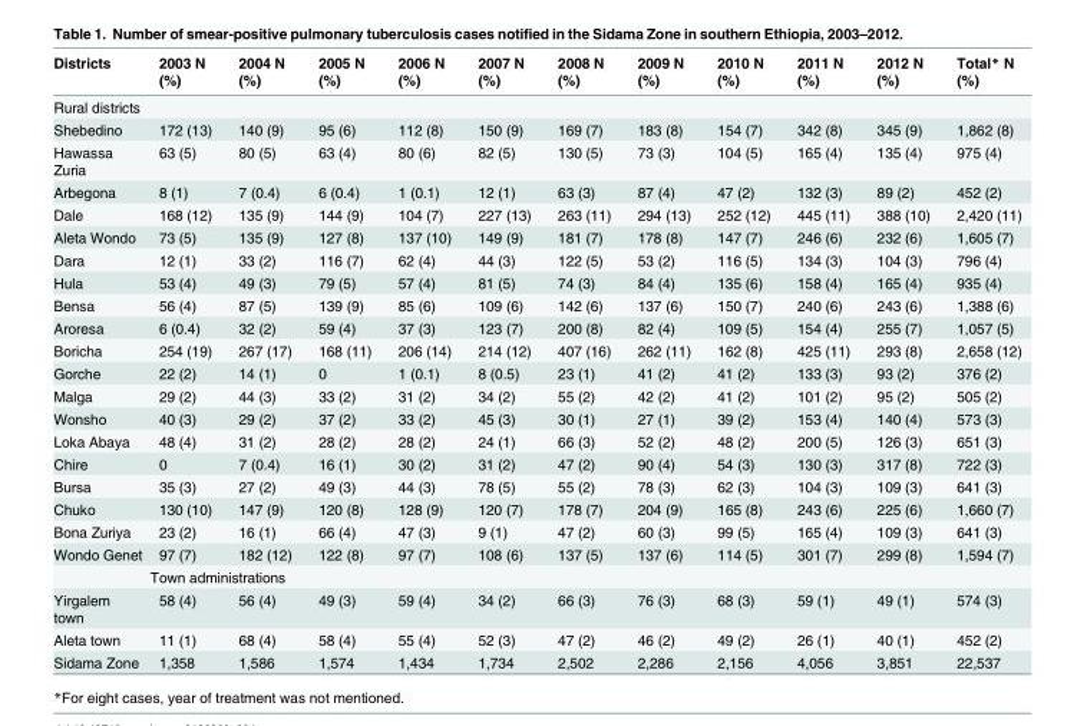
<table><thead><tr><td>Districts</td><td>2003 N (%)</td><td>2004 N (%)</td><td>2005 N (%)</td><td>2006 N (%)</td><td>2007 N (%)</td><td>2008 N (%)</td><td>2009 N (%)</td><td>2010 N (%)</td><td>2011 N (%)</td><td>2012 N (%)</td><td>Total* N (%)</td></tr></thead><tbody><tr><td colspan="12">Rural districts</td></tr><tr><td>Shebedino</td><td>172 (13)</td><td>140 (9)</td><td>95 (6)</td><td>112 (8)</td><td>150 (9)</td><td>169 (7)</td><td>183 (8)</td><td>154 (7)</td><td>342 (8)</td><td>345 (9)</td><td>1,862 (8)</td></tr><tr><td>Hawassa Zuria</td><td>63 (5)</td><td>80 (5)</td><td>63 (4)</td><td>80 (6)</td><td>82 (5)</td><td>130 (5)</td><td>73 (3)</td><td>104 (5)</td><td>165 (4)</td><td>135 (4)</td><td>975 (4)</td></tr><tr><td>Arbegona</td><td>8 (1)</td><td>7 (0.4)</td><td>6 (0.4)</td><td>1 (0.1)</td><td>12 (1)</td><td>63 (3)</td><td>87 (4)</td><td>47 (2)</td><td>132 (3)</td><td>89 (2)</td><td>452 (2)</td></tr><tr><td>Dale</td><td>168 (12)</td><td>135 (9)</td><td>144 (9)</td><td>104 (7)</td><td>227 (13)</td><td>263 (11)</td><td>294 (13)</td><td>252 (12)</td><td>445 (11)</td><td>388 (10)</td><td>2,420 (11)</td></tr><tr><td>Aleta Wondo</td><td>73 (5)</td><td>135 (9)</td><td>127 (8)</td><td>137 (10)</td><td>149 (9)</td><td>181 (7)</td><td>178 (8)</td><td>147 (7)</td><td>246 (6)</td><td>232 (6)</td><td>1,605 (7)</td></tr><tr><td>Dara</td><td>12 (1)</td><td>33 (2)</td><td>116 (7)</td><td>62 (4)</td><td>44 (3)</td><td>122 (5)</td><td>53 (2)</td><td>116 (5)</td><td>134 (3)</td><td>104 (3)</td><td>796 (4)</td></tr><tr><td>Hula</td><td>53 (4)</td><td>49 (3)</td><td>79 (5)</td><td>57 (4)</td><td>81 (5)</td><td>74 (3)</td><td>84 (4)</td><td>135 (6)</td><td>158 (4)</td><td>165 (4)</td><td>935 (4)</td></tr><tr><td>Bensa</td><td>56 (4)</td><td>87 (5)</td><td>139 (9)</td><td>85 (6)</td><td>109 (6)</td><td>142 (6)</td><td>137 (6)</td><td>150 (7)</td><td>240 (6)</td><td>243 (6)</td><td>1,388 (6)</td></tr><tr><td>Aroresa</td><td>6 (0.4)</td><td>32 (2)</td><td>59 (4)</td><td>37 (3)</td><td>123 (7)</td><td>200 (8)</td><td>82 (4)</td><td>109 (5)</td><td>154 (4)</td><td>255 (7)</td><td>1,057 (5)</td></tr><tr><td>Boricha</td><td>254 (19)</td><td>267 (17)</td><td>168 (11)</td><td>206 (14)</td><td>214 (12)</td><td>407 (16)</td><td>262 (11)</td><td>162 (8)</td><td>425 (11)</td><td>293 (8)</td><td>2,658 (12)</td></tr><tr><td>Gorche</td><td>22 (2)</td><td>14 (1)</td><td>0</td><td>1 (0.1)</td><td>8 (0.5)</td><td>23 (1)</td><td>41 (2)</td><td>41 (2)</td><td>133 (3)</td><td>93 (2)</td><td>376 (2)</td></tr><tr><td>Malga</td><td>29 (2)</td><td>44 (3)</td><td>33 (2)</td><td>31 (2)</td><td>34 (2)</td><td>55 (2)</td><td>42 (2)</td><td>41 (2)</td><td>101 (2)</td><td>95 (2)</td><td>505 (2)</td></tr><tr><td>Wonsho</td><td>40 (3)</td><td>29 (2)</td><td>37 (2)</td><td>33 (2)</td><td>45 (3)</td><td>30 (1)</td><td>27 (1)</td><td>39 (2)</td><td>153 (4)</td><td>140 (4)</td><td>573 (3)</td></tr><tr><td>Loka Abaya</td><td>48 (4)</td><td>31 (2)</td><td>28 (2)</td><td>28 (2)</td><td>24 (1)</td><td>66 (3)</td><td>52 (2)</td><td>48 (2)</td><td>200 (5)</td><td>126 (3)</td><td>651 (3)</td></tr><tr><td>Chire</td><td>0</td><td>7 (0.4)</td><td>16 (1)</td><td>30 (2)</td><td>31 (2)</td><td>47 (2)</td><td>90 (4)</td><td>54 (3)</td><td>130 (3)</td><td>317 (8)</td><td>722 (3)</td></tr><tr><td>Bursa</td><td>35 (3)</td><td>27 (2)</td><td>49 (3)</td><td>44 (3)</td><td>78 (5)</td><td>55 (2)</td><td>78 (3)</td><td>62 (3)</td><td>104 (3)</td><td>109 (3)</td><td>641 (3)</td></tr><tr><td>Chuko</td><td>130 (10)</td><td>147 (9)</td><td>120 (8)</td><td>128 (9)</td><td>120 (7)</td><td>178 (7)</td><td>204 (9)</td><td>165 (8)</td><td>243 (6)</td><td>225 (6)</td><td>1,660 (7)</td></tr><tr><td>Bona Zuriya</td><td>23 (2)</td><td>16 (1)</td><td>66 (4)</td><td>47 (3)</td><td>9 (1)</td><td>47 (2)</td><td>60 (3)</td><td>99 (5)</td><td>165 (4)</td><td>109 (3)</td><td>641 (3)</td></tr><tr><td>Wondo Genet</td><td>97 (7)</td><td>182 (12)</td><td>122 (8)</td><td>97 (7)</td><td>108 (6)</td><td>137 (5)</td><td>137 (6)</td><td>114 (5)</td><td>301 (7)</td><td>299 (8)</td><td>1,594 (7)</td></tr><tr><td colspan="12">Town administrations</td></tr><tr><td>Yirgalem town</td><td>58 (4)</td><td>56 (4)</td><td>49 (3)</td><td>59 (4)</td><td>34 (2)</td><td>66 (3)</td><td>76 (3)</td><td>68 (3)</td><td>59 (1)</td><td>49 (1)</td><td>574 (3)</td></tr><tr><td>Aleta town</td><td>11 (1)</td><td>68 (4)</td><td>58 (4)</td><td>55 (4)</td><td>52 (3)</td><td>47 (2)</td><td>46 (2)</td><td>49 (2)</td><td>26 (1)</td><td>40 (1)</td><td>452 (2)</td></tr><tr><td>Sidama Zone</td><td>1,358</td><td>1,586</td><td>1,574</td><td>1,434</td><td>1,734</td><td>2,502</td><td>2,286</td><td>2,156</td><td>4,056</td><td>3,851</td><td>22,537</td></tr></tbody></table>